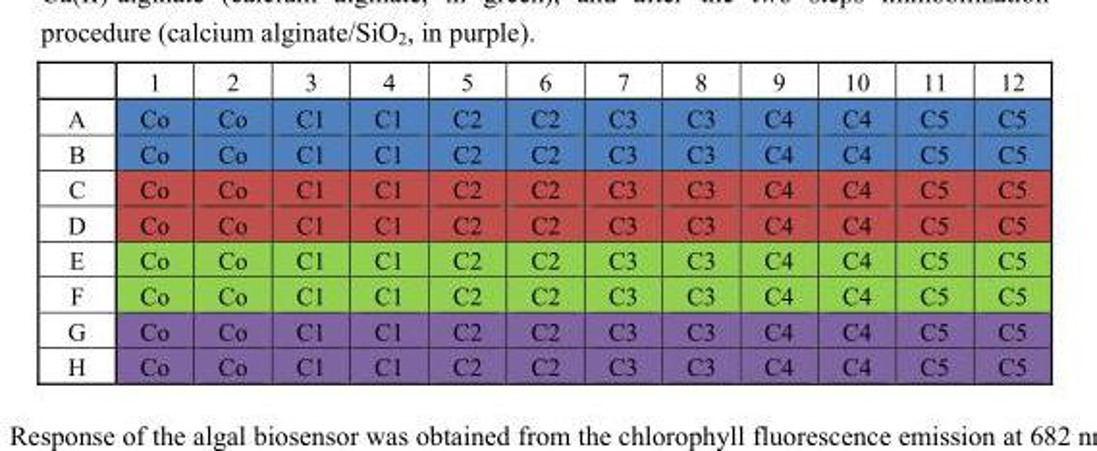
<table><thead><tr><td></td><td>1</td><td>2</td><td>3</td><td>4</td><td>5</td><td>6</td><td>7</td><td>8</td><td>9</td><td>10</td><td>11</td><td>12</td></tr></thead><tbody><tr><td>A</td><td>Co</td><td>Co</td><td>C1</td><td>C1</td><td>C2</td><td>C2</td><td>C3</td><td>C3</td><td>C4</td><td>C4</td><td>C5</td><td>C5</td></tr><tr><td>B</td><td>Co</td><td>Co</td><td>C1</td><td>C1</td><td>C2</td><td>C2</td><td>C3</td><td>C3</td><td>C4</td><td>C4</td><td>C5</td><td>C5</td></tr><tr><td>C</td><td>Co</td><td>Co</td><td>C1</td><td>C1</td><td>C2</td><td>C2</td><td>C3</td><td>C3</td><td>C4</td><td>C4</td><td>C5</td><td>C5</td></tr><tr><td>D</td><td>Co</td><td>Co</td><td>C1</td><td>C1</td><td>C2</td><td>C2</td><td>C3</td><td>C3</td><td>C4</td><td>C4</td><td>C5</td><td>C5</td></tr><tr><td>E</td><td>Co</td><td>Co</td><td>C1</td><td>C1</td><td>C2</td><td>C2</td><td>C3</td><td>C3</td><td>C4</td><td>C4</td><td>C5</td><td>C5</td></tr><tr><td>F</td><td>Co</td><td>Co</td><td>C1</td><td>C1</td><td>C2</td><td>C2</td><td>C3</td><td>C3</td><td>C4</td><td>C4</td><td>C5</td><td>C5</td></tr><tr><td>G</td><td>Co</td><td>Co</td><td>C1</td><td>C1</td><td>C2</td><td>C2</td><td>C3</td><td>C3</td><td>C4</td><td>C4</td><td>C5</td><td>C5</td></tr><tr><td>H</td><td>Co</td><td>Co</td><td>C1</td><td>C1</td><td>C2</td><td>C2</td><td>C3</td><td>C3</td><td>C4</td><td>C4</td><td>C5</td><td>C5</td></tr></tbody></table>